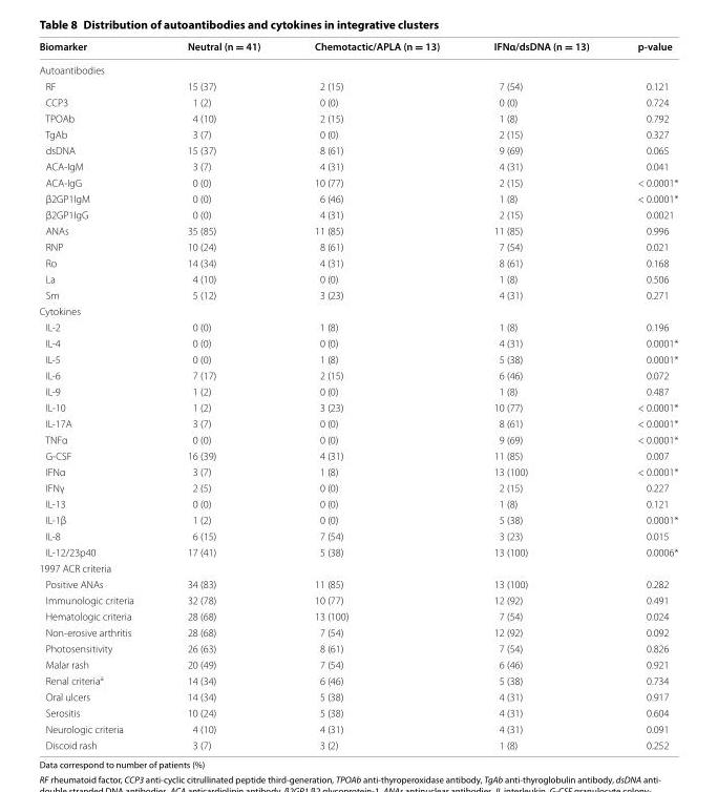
<table><thead><tr><td>Biomarker</td><td>Neutral (n = 41)</td><td>Chemotactic/APLA (n = 13)</td><td>IFNα/dsDNA (n = 13)</td><td>p-value</td></tr></thead><tbody><tr><td colspan="5">Autoantibodies</td></tr><tr><td>RF</td><td>15 (37)</td><td>2 (15)</td><td>7 (54)</td><td>0.121</td></tr><tr><td>CCP3</td><td>1 (2)</td><td>0 (0)</td><td>0 (0)</td><td>0.724</td></tr><tr><td>TPOAb</td><td>4 (10)</td><td>2 (15)</td><td>1 (8)</td><td>0.792</td></tr><tr><td>TgAb</td><td>3 (7)</td><td>0 (0)</td><td>2 (15)</td><td>0.327</td></tr><tr><td>dsDNA</td><td>15 (37)</td><td>8 (61)</td><td>9 (69)</td><td>0.065</td></tr><tr><td>ACA‑IgM</td><td>3 (7)</td><td>4 (31)</td><td>4 (31)</td><td>0.041</td></tr><tr><td>ACA‑IgG</td><td>0 (0)</td><td>10 (77)</td><td>2 (15)</td><td>&lt; 0.0001*</td></tr><tr><td>β2GP1IgM</td><td>0 (0)</td><td>6 (46)</td><td>1 (8)</td><td>&lt; 0.0001*</td></tr><tr><td>β2GP1IgG</td><td>0 (0)</td><td>4 (31)</td><td>2 (15)</td><td>0.0021</td></tr><tr><td>ANAs</td><td>35 (85)</td><td>11 (85)</td><td>11 (85)</td><td>0.996</td></tr><tr><td>RNP</td><td>10 (24)</td><td>8 (61)</td><td>7 (54)</td><td>0.021</td></tr><tr><td>Ro</td><td>14 (34)</td><td>4 (31)</td><td>8 (61)</td><td>0.168</td></tr><tr><td>La</td><td>4 (10)</td><td>0 (0)</td><td>1 (8)</td><td>0.506</td></tr><tr><td>Sm</td><td>5 (12)</td><td>3 (23)</td><td>4 (31)</td><td>0.271</td></tr><tr><td colspan="5">Cytokines</td></tr><tr><td>IL‑2</td><td>0 (0)</td><td>1 (8)</td><td>1 (8)</td><td>0.196</td></tr><tr><td>IL‑4</td><td>0 (0)</td><td>0 (0)</td><td>4 (31)</td><td>0.0001*</td></tr><tr><td>IL‑5</td><td>0 (0)</td><td>1 (8)</td><td>5 (38)</td><td>0.0001*</td></tr><tr><td>IL‑6</td><td>7 (17)</td><td>2 (15)</td><td>6 (46)</td><td>0.072</td></tr><tr><td>IL‑9</td><td>1 (2)</td><td>0 (0)</td><td>1 (8)</td><td>0.487</td></tr><tr><td>IL‑10</td><td>1 (2)</td><td>3 (23)</td><td>10 (77)</td><td>&lt; 0.0001*</td></tr><tr><td>IL‑17A</td><td>3 (7)</td><td>0 (0)</td><td>8 (61)</td><td>&lt; 0.0001*</td></tr><tr><td>TNFα</td><td>0 (0)</td><td>0 (0)</td><td>9 (69)</td><td>&lt; 0.0001*</td></tr><tr><td>G‑CSF</td><td>16 (39)</td><td>4 (31)</td><td>11 (85)</td><td>0.007</td></tr><tr><td>IFNα</td><td>3 (7)</td><td>1 (8)</td><td>13 (100)</td><td>&lt; 0.0001*</td></tr><tr><td>IFNγ</td><td>2 (5)</td><td>0 (0)</td><td>2 (15)</td><td>0.227</td></tr><tr><td>IL‑13</td><td>0 (0)</td><td>0 (0)</td><td>1 (8)</td><td>0.121</td></tr><tr><td>IL‑1β</td><td>1 (2)</td><td>0 (0)</td><td>5 (38)</td><td>0.0001*</td></tr><tr><td>IL‑8</td><td>6 (15)</td><td>7 (54)</td><td>3 (23)</td><td>0.015</td></tr><tr><td>IL‑12/23p40</td><td>17 (41)</td><td>5 (38)</td><td>13 (100)</td><td>0.0006*</td></tr><tr><td colspan="5">1997 ACR criteria</td></tr><tr><td>Positive ANAs</td><td>34 (83)</td><td>11 (85)</td><td>13 (100)</td><td>0.282</td></tr><tr><td>Immunologic criteria</td><td>32 (78)</td><td>10 (77)</td><td>12 (92)</td><td>0.491</td></tr><tr><td>Hematologic criteria</td><td>28 (68)</td><td>13 (100)</td><td>7 (54)</td><td>0.024</td></tr><tr><td>Non‑erosive arthritis</td><td>28 (68)</td><td>7 (54)</td><td>12 (92)</td><td>0.092</td></tr><tr><td>Photosensitivity</td><td>26 (63)</td><td>8 (61)</td><td>7 (54)</td><td>0.826</td></tr><tr><td>Malar rash</td><td>20 (49)</td><td>7 (54)</td><td>6 (46)</td><td>0.921</td></tr><tr><td>Renal criteria<sup>a</sup></td><td>14 (34)</td><td>6 (46)</td><td>5 (38)</td><td>0.734</td></tr><tr><td>Oral ulcers</td><td>14 (34)</td><td>5 (38)</td><td>4 (31)</td><td>0.917</td></tr><tr><td>Serositis</td><td>10 (24)</td><td>5 (38)</td><td>4 (31)</td><td>0.604</td></tr><tr><td>Neurologic criteria</td><td>4 (10)</td><td>4 (31)</td><td>4 (31)</td><td>0.091</td></tr><tr><td>Discoid rash</td><td>3 (7)</td><td>3 (2)</td><td>1 (8)</td><td>0.252</td></tr></tbody></table>